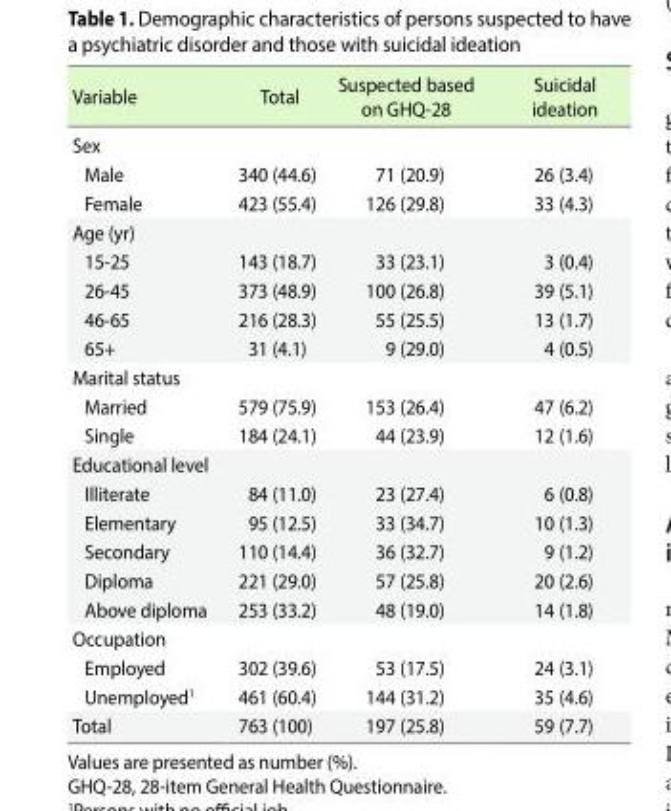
<table><thead><tr><td>Variable</td><td>Total</td><td>Suspected based on GHQ-28</td><td>Suicidal ideation</td></tr></thead><tbody><tr><td colspan="4">Sex</td></tr><tr><td>Male</td><td>340 (44.6)</td><td>71 (20.9)</td><td>26 (3.4)</td></tr><tr><td>Female</td><td>423 (55.4)</td><td>126 (29.8)</td><td>33 (4.3)</td></tr><tr><td colspan="4">Age (yr)</td></tr><tr><td>15-25</td><td>143 (18.7)</td><td>33 (23.1)</td><td>3 (0.4)</td></tr><tr><td>26-45</td><td>373 (48.9)</td><td>100 (26.8)</td><td>39 (5.1)</td></tr><tr><td>46-65</td><td>216 (28.3)</td><td>55 (25.5)</td><td>13 (1.7)</td></tr><tr><td>65+</td><td>31 (4.1)</td><td>9 (29.0)</td><td>4 (0.5)</td></tr><tr><td colspan="4">Marital status</td></tr><tr><td>Married</td><td>579 (75.9)</td><td>153 (26.4)</td><td>47 (6.2)</td></tr><tr><td>Single</td><td>184 (24.1)</td><td>44 (23.9)</td><td>12 (1.6)</td></tr><tr><td colspan="4">Educational level</td></tr><tr><td>Illiterate</td><td>84 (11.0)</td><td>23 (27.4)</td><td>6 (0.8)</td></tr><tr><td>Elementary</td><td>95 (12.5)</td><td>33 (34.7)</td><td>10 (1.3)</td></tr><tr><td>Secondary</td><td>110 (14.4)</td><td>36 (32.7)</td><td>9 (1.2)</td></tr><tr><td>Diploma</td><td>221 (29.0)</td><td>57 (25.8)</td><td>20 (2.6)</td></tr><tr><td>Above diploma</td><td>253 (33.2)</td><td>48 (19.0)</td><td>14 (1.8)</td></tr><tr><td colspan="4">Occupation</td></tr><tr><td>Employed</td><td>302 (39.6)</td><td>53 (17.5)</td><td>24 (3.1)</td></tr><tr><td>Unemployed<sup>1</sup></td><td>461 (60.4)</td><td>144 (31.2)</td><td>35 (4.6)</td></tr><tr><td>Total</td><td>763 (100)</td><td>197 (25.8)</td><td>59 (7.7)</td></tr></tbody></table>